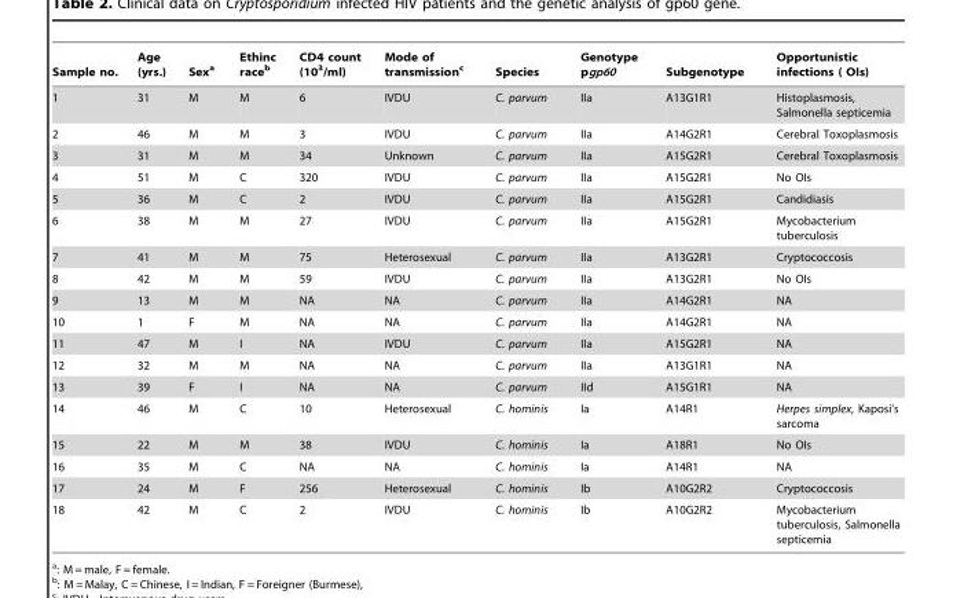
<table><thead><tr><td>Sample no.</td><td>Age (yrs.)</td><td>Sex<sup>a</sup></td><td>Ethinc race<sup>b</sup></td><td>CD4 count (10<sup>3</sup>/ml)</td><td>Mode of transmission<sup>c</sup></td><td>Species</td><td>Genotype pgp60</td><td>Subgenotype</td><td>Opportunistic infections ( OIs)</td></tr></thead><tbody><tr><td>1</td><td>31</td><td>M</td><td>M</td><td>6</td><td>IVDU</td><td>C. parvum</td><td>IIa</td><td>A13G1R1</td><td>Histoplasmosis, Salmonella septicemia</td></tr><tr><td>2</td><td>46</td><td>M</td><td>M</td><td>3</td><td>IVDU</td><td>C. parvum</td><td>IIa</td><td>A14G2R1</td><td>Cerebral Toxoplasmosis</td></tr><tr><td>3</td><td>31</td><td>M</td><td>M</td><td>34</td><td>Unknown</td><td>C. parvum</td><td>IIa</td><td>A15G2R1</td><td>Cerebral Toxoplasmosis</td></tr><tr><td>4</td><td>51</td><td>M</td><td>C</td><td>320</td><td>IVDU</td><td>C. parvum</td><td>IIa</td><td>A15G2R1</td><td>No OIs</td></tr><tr><td>5</td><td>36</td><td>M</td><td>C</td><td>2</td><td>IVDU</td><td>C. parvum</td><td>IIa</td><td>A15G2R1</td><td>Candidiasis</td></tr><tr><td>6</td><td>38</td><td>M</td><td>M</td><td>27</td><td>IVDU</td><td>C. parvum</td><td>IIa</td><td>A15G2R1</td><td>Mycobacterium tuberculosis</td></tr><tr><td>7</td><td>41</td><td>M</td><td>M</td><td>75</td><td>Heterosexual</td><td>C. parvum</td><td>IIa</td><td>A13G2R1</td><td>Cryptococcosis</td></tr><tr><td>8</td><td>42</td><td>M</td><td>M</td><td>59</td><td>IVDU</td><td>C. parvum</td><td>IIa</td><td>A13G2R1</td><td>No OIs</td></tr><tr><td>9</td><td>13</td><td>M</td><td>M</td><td>NA</td><td>NA</td><td>C. parvum</td><td>IIa</td><td>A14G2R1</td><td>NA</td></tr><tr><td>10</td><td>1</td><td>F</td><td>M</td><td>NA</td><td>NA</td><td>C. parvum</td><td>IIa</td><td>A14G2R1</td><td>NA</td></tr><tr><td>11</td><td>47</td><td>M</td><td>I</td><td>NA</td><td>IVDU</td><td>C. parvum</td><td>IIa</td><td>A15G2R1</td><td>NA</td></tr><tr><td>12</td><td>32</td><td>M</td><td>M</td><td>NA</td><td>NA</td><td>C. parvum</td><td>IIa</td><td>A13G1R1</td><td>NA</td></tr><tr><td>13</td><td>39</td><td>F</td><td>I</td><td>NA</td><td>NA</td><td>C. parvum</td><td>IId</td><td>A15G1R1</td><td>NA</td></tr><tr><td>14</td><td>46</td><td>M</td><td>C</td><td>10</td><td>Heterosexual</td><td>C. hominis</td><td>Ia</td><td>A14R1</td><td>Herpes simplex, Kaposi’s sarcoma</td></tr><tr><td>15</td><td>22</td><td>M</td><td>M</td><td>38</td><td>IVDU</td><td>C. hominis</td><td>Ia</td><td>A18R1</td><td>No OIs</td></tr><tr><td>16</td><td>35</td><td>M</td><td>C</td><td>NA</td><td>NA</td><td>C. hominis</td><td>Ia</td><td>A14R1</td><td>NA</td></tr><tr><td>17</td><td>24</td><td>M</td><td>F</td><td>256</td><td>Heterosexual</td><td>C. hominis</td><td>Ib</td><td>A10G2R2</td><td>Cryptococcosis</td></tr><tr><td>18</td><td>42</td><td>M</td><td>C</td><td>2</td><td>IVDU</td><td>C. hominis</td><td>Ib</td><td>A10G2R2</td><td>Mycobacterium tuberculosis, Salmonella septicemia</td></tr></tbody></table>